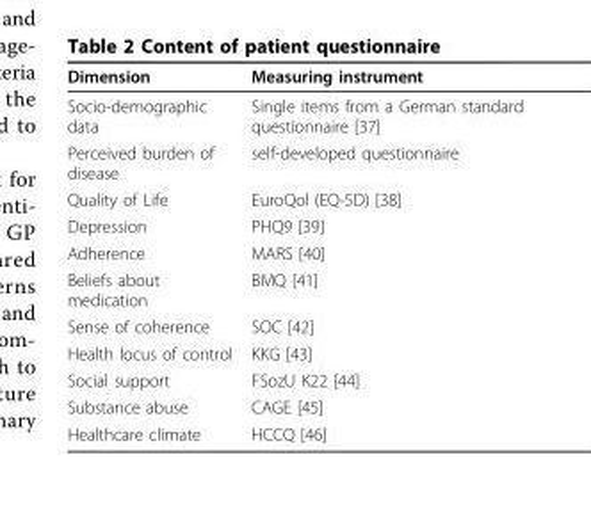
<table><thead><tr><td>Dimension</td><td>Measuring instrument</td></tr></thead><tbody><tr><td>Socio-demographic data</td><td>Single items from a German standard questionnaire [37]</td></tr><tr><td>Perceived burden of disease</td><td>self-developed questionnaire</td></tr><tr><td>Quality of Life</td><td>EuroQol (EQ-5D) [38]</td></tr><tr><td>Depression</td><td>PHQ9 [39]</td></tr><tr><td>Adherence</td><td>MARS [40]</td></tr><tr><td>Beliefs about medication</td><td>BMQ [41]</td></tr><tr><td>Sense of coherence</td><td>SOC [42]</td></tr><tr><td>Health locus of control</td><td>KKG [43]</td></tr><tr><td>Social support</td><td>FSozU K22 [44]</td></tr><tr><td>Substance abuse</td><td>CAGE [45]</td></tr><tr><td>Healthcare climate</td><td>HCCQ [46]</td></tr></tbody></table>